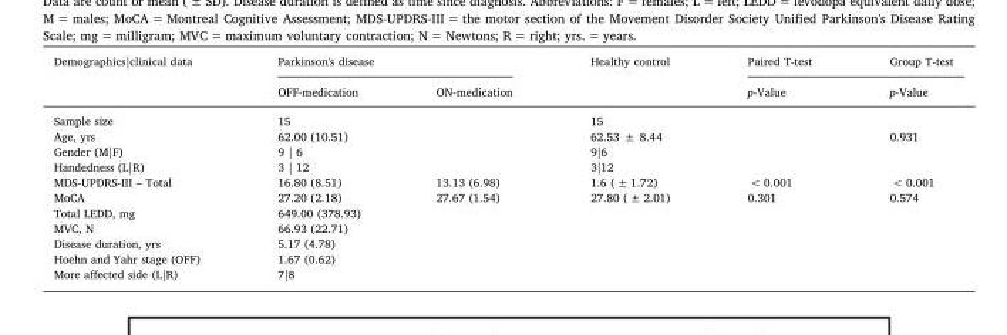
<table><thead><tr><td rowspan="2">Demographics|clinical data</td><td colspan="2">Parkinson&#x27;s disease</td><td rowspan="2">Healthy control</td><td rowspan="2">Paired T-test p-Value</td><td rowspan="2">Group T-test p-Value</td></tr><tr><td>OFF-medication</td><td>ON-medication</td></tr></thead><tbody><tr><td>Sample size</td><td colspan="2">15</td><td>15</td><td rowspan="3"></td><td></td></tr><tr><td>Age, yrs</td><td colspan="2">62.00 (10.51)</td><td>62.53 ± 8.44</td><td>0.931</td></tr><tr><td>Gender (M|F)</td><td colspan="2">9 | 6</td><td>9|6</td><td></td></tr><tr><td>Handedness (L|R)</td><td colspan="2">3 | 12</td><td>3|12</td><td></td><td></td></tr><tr><td>MDS-UPDRS-III – Total</td><td>16.80 (8.51)</td><td>13.13 (6.98)</td><td>1.6 ( ± 1.72)</td><td>&lt; 0.001</td><td>&lt; 0.001</td></tr><tr><td>MoCA</td><td>27.20 (2.18)</td><td>27.67 (1.54)</td><td>27.80 ( ± 2.01)</td><td>0.301</td><td>0.574</td></tr><tr><td>Total LEDD, mg</td><td colspan="2">649.00 (378.93)</td><td></td><td></td><td></td></tr><tr><td>MVC, N</td><td colspan="2">66.93 (22.71)</td><td rowspan="4"></td><td rowspan="4"></td><td rowspan="4"></td></tr><tr><td>Disease duration, yrs</td><td colspan="2">5.17 (4.78)</td></tr><tr><td>Hoehn and Yahr stage (OFF)</td><td colspan="2">1.67 (0.62)</td></tr><tr><td>More affected side (L|R)</td><td colspan="2">7|8</td></tr></tbody></table>